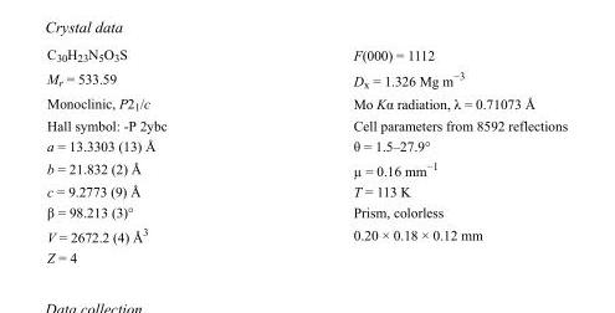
<table><tbody><tr><td>C<sub>30</sub>H<sub>23</sub>N<sub>5</sub>O<sub>3</sub>S</td><td>F(000) = 1112</td></tr><tr><td>M<sub>r</sub> = 533.59</td><td>D<sub>x</sub> = 1.326 Mg m<sup>−3</sup></td></tr><tr><td>Monoclinic, P2<sub>1</sub>/c</td><td>Mo Kα radiation, λ = 0.71073 Å</td></tr><tr><td>Hall symbol: -P 2ybc</td><td>Cell parameters from 8592 reflections</td></tr><tr><td>a = 13.3303 (13) Å</td><td>θ = 1.5–27.9°</td></tr><tr><td>b = 21.832 (2) Å</td><td>µ = 0.16 mm<sup>−1</sup></td></tr><tr><td>c = 9.2773 (9) Å</td><td>T = 113 K</td></tr><tr><td>β = 98.213 (3)°</td><td>Prism, colorless</td></tr><tr><td>V = 2672.2 (4) Å<sup>3</sup></td><td>0.20 × 0.18 × 0.12 mm</td></tr><tr><td>Z = 4</td><td></td></tr></tbody></table>